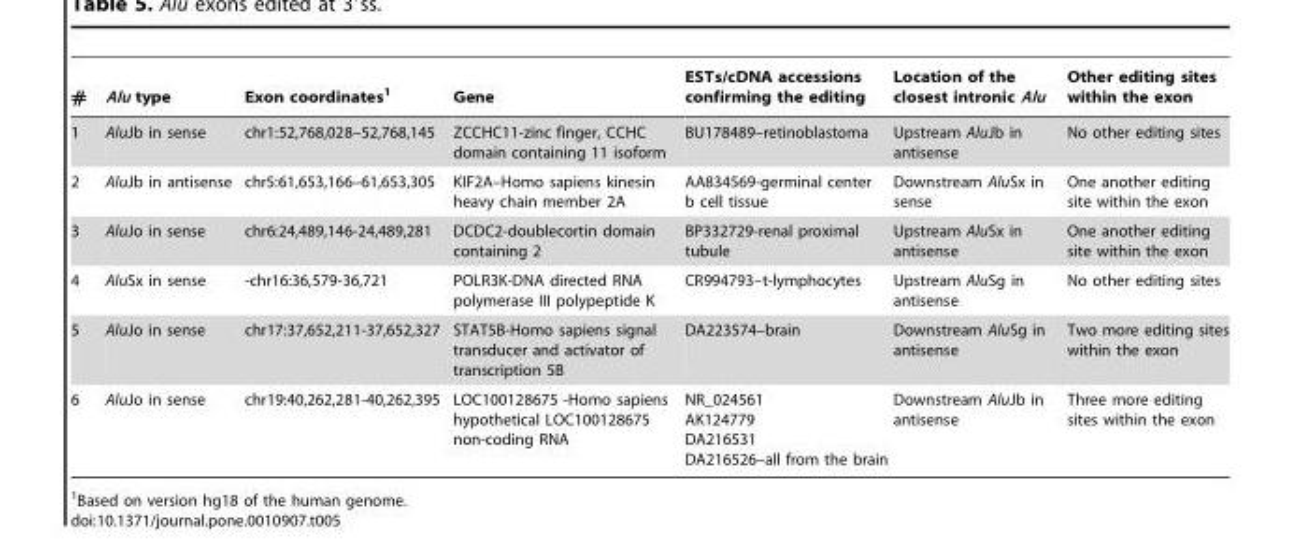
<table><thead><tr><td>#</td><td>Alu type</td><td>Exon coordinates<sup>1</sup></td><td>Gene</td><td>ESTs/cDNA accessions confirming the editing</td><td>Location of the closest intronic Alu</td><td>Other editing sites within the exon</td></tr></thead><tbody><tr><td>1</td><td>AluJb in sense</td><td>chr1:52,768,028–52,768,145</td><td>ZCCHC11-zinc finger, CCHC domain containing 11 isoform</td><td>BU178489–retinoblastoma</td><td>Upstream AluJb in antisense</td><td>No other editing sites</td></tr><tr><td>2</td><td>AluJb in antisense</td><td>chr5:61,653,166–61,653,305</td><td>KIF2A–Homo sapiens kinesin heavy chain member 2A</td><td>AA834569-germinal center b cell tissue</td><td>Downstream AluSx in sense</td><td>One another editing site within the exon</td></tr><tr><td>3</td><td>AluJo in sense</td><td>chr6:24,489,146-24,489,281</td><td>DCDC2-doublecortin domain containing 2</td><td>BP332729-renal proximal tubule</td><td>Upstream AluSx in antisense</td><td>One another editing site within the exon</td></tr><tr><td>4</td><td>AluSx in sense</td><td>-chr16:36,579-36,721</td><td>POLR3K-DNA directed RNA polymerase III polypeptide K</td><td>CR994793–t-lymphocytes</td><td>Upstream AluSg in antisense</td><td>No other editing sites</td></tr><tr><td>5</td><td>AluJo in sense</td><td>chr17:37,652,211-37,652,327</td><td>STAT5B-Homo sapiens signal transducer and activator of transcription 5B</td><td>DA223574–brain</td><td>Downstream AluSg in antisense</td><td>Two more editing sites within the exon</td></tr><tr><td>6</td><td>AluJo in sense</td><td>chr19:40,262,281-40,262,395</td><td>LOC100128675 -Homo sapiens hypothetical LOC100128675 non-coding RNA</td><td>NR_024561 AK124779 DA216531 DA216526–all from the brain</td><td>Downstream AluJb in antisense</td><td>Three more editing sites within the exon</td></tr></tbody></table>